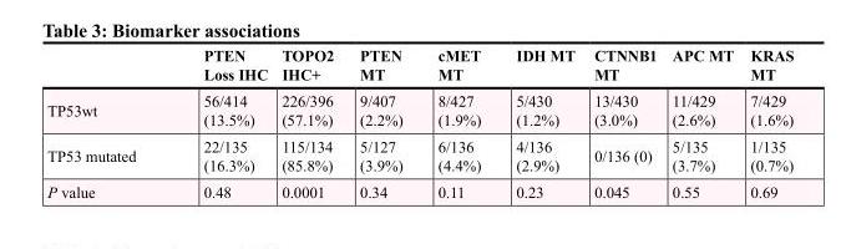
<table><thead><tr><td></td><td>PTEN Loss IHC</td><td>TOPO2 IHC+</td><td>PTEN MT</td><td>cMET MT</td><td>IDH MT</td><td>CTNNB1 MT</td><td>APC MT</td><td>KRAS MT</td></tr></thead><tbody><tr><td>TP53wt</td><td>56/414 (13.5%)</td><td>226/396 (57.1%)</td><td>9/407 (2.2%)</td><td>8/427 (1.9%)</td><td>5/430 (1.2%)</td><td>13/430 (3.0%)</td><td>11/429 (2.6%)</td><td>7/429 (1.6%)</td></tr><tr><td>TP53 mutated</td><td>22/135 (16.3%)</td><td>115/134 (85.8%)</td><td>5/127 (3.9%)</td><td>6/136 (4.4%)</td><td>4/136 (2.9%)</td><td>0/136 (0)</td><td>5/135 (3.7%)</td><td>1/135 (0.7%)</td></tr><tr><td>P value</td><td>0.48</td><td>0.0001</td><td>0.34</td><td>0.11</td><td>0.23</td><td>0.045</td><td>0.55</td><td>0.69</td></tr></tbody></table>